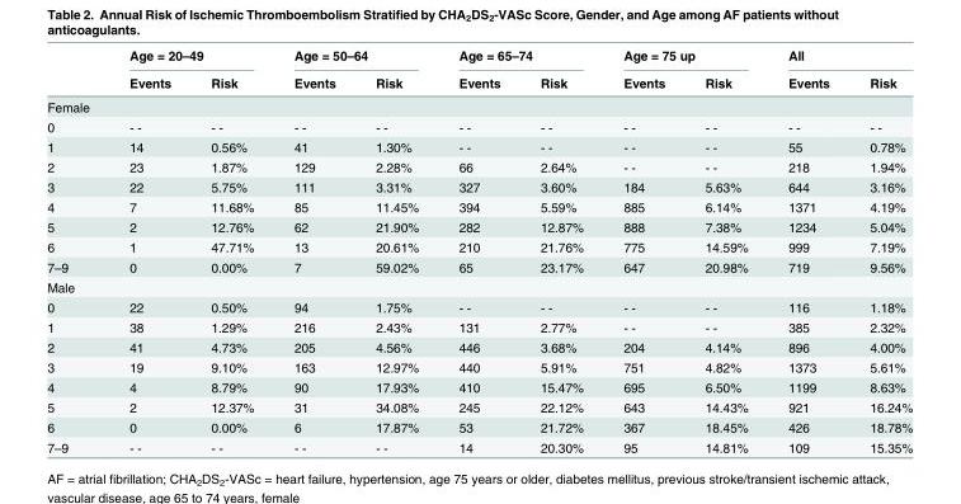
<table><thead><tr><td rowspan="2"></td><td colspan="2">Age = 20–49</td><td colspan="2">Age = 50–64</td><td colspan="2">Age = 65–74</td><td colspan="2">Age = 75 up</td><td colspan="2">All</td></tr><tr><td>Events</td><td>Risk</td><td>Events</td><td>Risk</td><td>Events</td><td>Risk</td><td>Events</td><td>Risk</td><td>Events</td><td>Risk</td></tr></thead><tbody><tr><td colspan="11">Female</td></tr><tr><td>0</td><td>- -</td><td>- -</td><td>- -</td><td>- -</td><td>- -</td><td>- -</td><td>- -</td><td>- -</td><td>- -</td><td>- -</td></tr><tr><td>1</td><td>14</td><td>0.56%</td><td>41</td><td>1.30%</td><td>- -</td><td>- -</td><td>- -</td><td>- -</td><td>55</td><td>0.78%</td></tr><tr><td>2</td><td>23</td><td>1.87%</td><td>129</td><td>2.28%</td><td>66</td><td>2.64%</td><td>- -</td><td>- -</td><td>218</td><td>1.94%</td></tr><tr><td>3</td><td>22</td><td>5.75%</td><td>111</td><td>3.31%</td><td>327</td><td>3.60%</td><td>184</td><td>5.63%</td><td>644</td><td>3.16%</td></tr><tr><td>4</td><td>7</td><td>11.68%</td><td>85</td><td>11.45%</td><td>394</td><td>5.59%</td><td>885</td><td>6.14%</td><td>1371</td><td>4.19%</td></tr><tr><td>5</td><td>2</td><td>12.76%</td><td>62</td><td>21.90%</td><td>282</td><td>12.87%</td><td>888</td><td>7.38%</td><td>1234</td><td>5.04%</td></tr><tr><td>6</td><td>1</td><td>47.71%</td><td>13</td><td>20.61%</td><td>210</td><td>21.76%</td><td>775</td><td>14.59%</td><td>999</td><td>7.19%</td></tr><tr><td>7–9</td><td>0</td><td>0.00%</td><td>7</td><td>59.02%</td><td>65</td><td>23.17%</td><td>647</td><td>20.98%</td><td>719</td><td>9.56%</td></tr><tr><td colspan="11">Male</td></tr><tr><td>0</td><td>22</td><td>0.50%</td><td>94</td><td>1.75%</td><td>- -</td><td>- -</td><td>- -</td><td>- -</td><td>116</td><td>1.18%</td></tr><tr><td>1</td><td>38</td><td>1.29%</td><td>216</td><td>2.43%</td><td>131</td><td>2.77%</td><td>- -</td><td>- -</td><td>385</td><td>2.32%</td></tr><tr><td>2</td><td>41</td><td>4.73%</td><td>205</td><td>4.56%</td><td>446</td><td>3.68%</td><td>204</td><td>4.14%</td><td>896</td><td>4.00%</td></tr><tr><td>3</td><td>19</td><td>9.10%</td><td>163</td><td>12.97%</td><td>440</td><td>5.91%</td><td>751</td><td>4.82%</td><td>1373</td><td>5.61%</td></tr><tr><td>4</td><td>4</td><td>8.79%</td><td>90</td><td>17.93%</td><td>410</td><td>15.47%</td><td>695</td><td>6.50%</td><td>1199</td><td>8.63%</td></tr><tr><td>5</td><td>2</td><td>12.37%</td><td>31</td><td>34.08%</td><td>245</td><td>22.12%</td><td>643</td><td>14.43%</td><td>921</td><td>16.24%</td></tr><tr><td>6</td><td>0</td><td>0.00%</td><td>6</td><td>17.87%</td><td>53</td><td>21.72%</td><td>367</td><td>18.45%</td><td>426</td><td>18.78%</td></tr><tr><td>7–9</td><td>- -</td><td>- -</td><td>- -</td><td>- -</td><td>14</td><td>20.30%</td><td>95</td><td>14.81%</td><td>109</td><td>15.35%</td></tr></tbody></table>